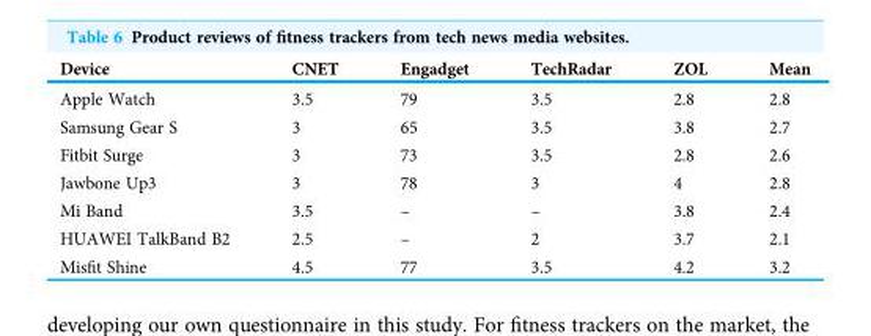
<table><thead><tr><td>Device</td><td>CNET</td><td>Engadget</td><td>TechRadar</td><td>ZOL</td><td>Mean</td></tr></thead><tbody><tr><td>Apple Watch</td><td>3.5</td><td>79</td><td>3.5</td><td>2.8</td><td>2.8</td></tr><tr><td>Samsung Gear S</td><td>3</td><td>65</td><td>3.5</td><td>3.8</td><td>2.7</td></tr><tr><td>Fitbit Surge</td><td>3</td><td>73</td><td>3.5</td><td>2.8</td><td>2.6</td></tr><tr><td>Jawbone Up3</td><td>3</td><td>78</td><td>3</td><td>4</td><td>2.8</td></tr><tr><td>Mi Band</td><td>3.5</td><td>–</td><td>–</td><td>3.8</td><td>2.4</td></tr><tr><td>HUAWEI TalkBand B2</td><td>2.5</td><td>–</td><td>2</td><td>3.7</td><td>2.1</td></tr><tr><td>Misfit Shine</td><td>4.5</td><td>77</td><td>3.5</td><td>4.2</td><td>3.2</td></tr></tbody></table>